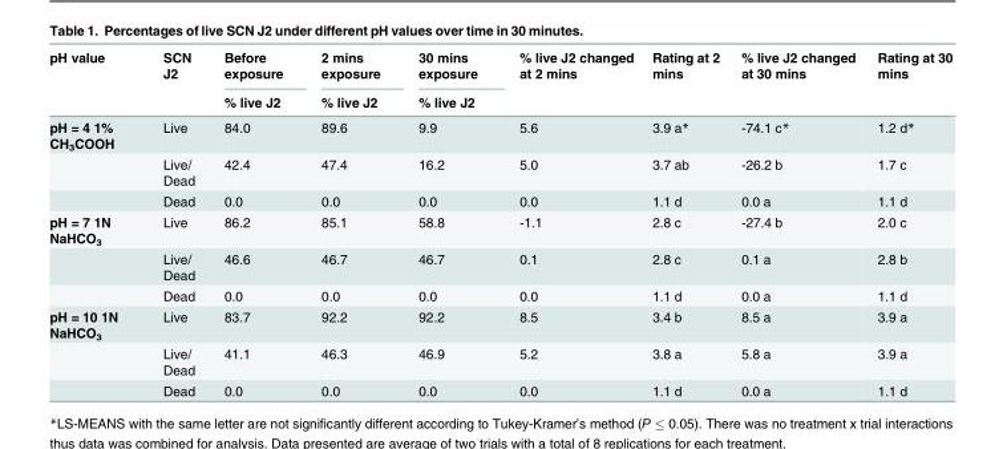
<table><thead><tr><td rowspan="2">pH value</td><td rowspan="2">SCN J2</td><td rowspan="2">Before exposure % live J2</td><td rowspan="2">2 mins exposure % live J2</td><td rowspan="2">30 mins exposure % live J2</td><td rowspan="2">% live J2 changed at 2 mins</td><td rowspan="2">Rating at 2 mins</td><td rowspan="2">% live J2 changed at 30 mins</td><td rowspan="2">Rating at 30 mins</td></tr><tr></tr></thead><tbody><tr><td rowspan="3">pH = 4 1% CH<sub>3</sub>COOH</td><td>Live</td><td>84.0</td><td>89.6</td><td>9.9</td><td>5.6</td><td>3.9 a*</td><td>-74.1 c*</td><td>1.2 d*</td></tr><tr><td>Live/ Dead</td><td>42.4</td><td>47.4</td><td>16.2</td><td>5.0</td><td>3.7 ab</td><td>-26.2 b</td><td>1.7 c</td></tr><tr><td>Dead</td><td>0.0</td><td>0.0</td><td>0.0</td><td>0.0</td><td>1.1 d</td><td>0.0 a</td><td>1.1 d</td></tr><tr><td rowspan="3">pH = 7 1N NaHCO<sub>3</sub></td><td>Live</td><td>86.2</td><td>85.1</td><td>58.8</td><td>-1.1</td><td>2.8 c</td><td>-27.4 b</td><td>2.0 c</td></tr><tr><td>Live/ Dead</td><td>46.6</td><td>46.7</td><td>46.7</td><td>0.1</td><td>2.8 c</td><td>0.1 a</td><td>2.8 b</td></tr><tr><td>Dead</td><td>0.0</td><td>0.0</td><td>0.0</td><td>0.0</td><td>1.1 d</td><td>0.0 a</td><td>1.1 d</td></tr><tr><td rowspan="3">pH = 10 1N NaHCO<sub>3</sub></td><td>Live</td><td>83.7</td><td>92.2</td><td>92.2</td><td>8.5</td><td>3.4 b</td><td>8.5 a</td><td>3.9 a</td></tr><tr><td>Live/ Dead</td><td>41.1</td><td>46.3</td><td>46.9</td><td>5.2</td><td>3.8 a</td><td>5.8 a</td><td>3.9 a</td></tr><tr><td>Dead</td><td>0.0</td><td>0.0</td><td>0.0</td><td>0.0</td><td>1.1 d</td><td>0.0 a</td><td>1.1 d</td></tr></tbody></table>